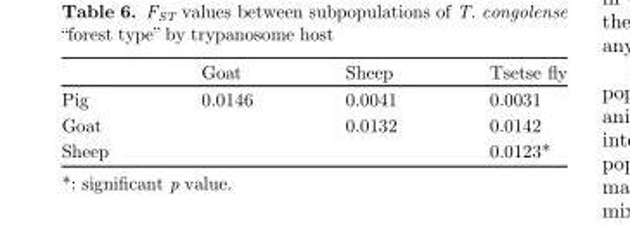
<table><thead><tr><td></td><td>Goat</td><td>Sheep</td><td>Tsetse fly</td></tr></thead><tbody><tr><td>Pig</td><td>0.0146</td><td>0.0041</td><td>0.0031</td></tr><tr><td>Goat</td><td></td><td>0.0132</td><td>0.0142</td></tr><tr><td>Sheep</td><td></td><td></td><td>0.0123*</td></tr></tbody></table>